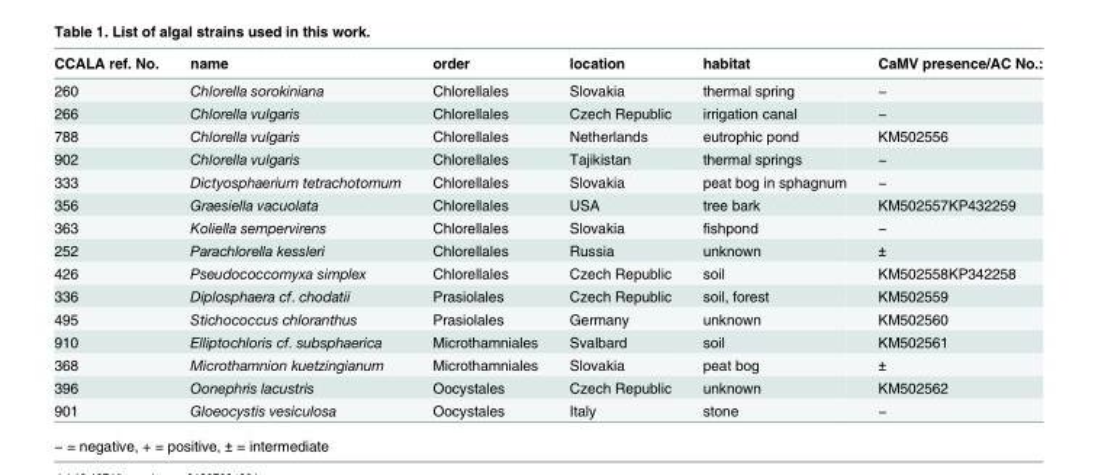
<table><thead><tr><td>CCALA ref. No.</td><td>name</td><td>order</td><td>location</td><td>habitat</td><td>CaMV presence/AC No.:</td></tr></thead><tbody><tr><td>260</td><td>Chlorella sorokiniana</td><td>Chlorellales</td><td>Slovakia</td><td>thermal spring</td><td>−</td></tr><tr><td>266</td><td>Chlorella vulgaris</td><td>Chlorellales</td><td>Czech Republic</td><td>irrigation canal</td><td>−</td></tr><tr><td>788</td><td>Chlorella vulgaris</td><td>Chlorellales</td><td>Netherlands</td><td>eutrophic pond</td><td>KM502556</td></tr><tr><td>902</td><td>Chlorella vulgaris</td><td>Chlorellales</td><td>Tajikistan</td><td>thermal springs</td><td>−</td></tr><tr><td>333</td><td>Dictyosphaerium tetrachotomum</td><td>Chlorellales</td><td>Slovakia</td><td>peat bog in sphagnum</td><td>−</td></tr><tr><td>356</td><td>Graesiella vacuolata</td><td>Chlorellales</td><td>USA</td><td>tree bark</td><td>KM502557KP432259</td></tr><tr><td>363</td><td>Koliella sempervirens</td><td>Chlorellales</td><td>Slovakia</td><td>fishpond</td><td>−</td></tr><tr><td>252</td><td>Parachlorella kessleri</td><td>Chlorellales</td><td>Russia</td><td>unknown</td><td>±</td></tr><tr><td>426</td><td>Pseudococcomyxa simplex</td><td>Chlorellales</td><td>Czech Republic</td><td>soil</td><td>KM502558KP342258</td></tr><tr><td>336</td><td>Diplosphaera cf. chodatii</td><td>Prasiolales</td><td>Czech Republic</td><td>soil, forest</td><td>KM502559</td></tr><tr><td>495</td><td>Stichococcus chloranthus</td><td>Prasiolales</td><td>Germany</td><td>unknown</td><td>KM502560</td></tr><tr><td>910</td><td>Elliptochloris cf. subsphaerica</td><td>Microthamniales</td><td>Svalbard</td><td>soil</td><td>KM502561</td></tr><tr><td>368</td><td>Microthamnion kuetzingianum</td><td>Microthamniales</td><td>Slovakia</td><td>peat bog</td><td>±</td></tr><tr><td>396</td><td>Oonephris lacustris</td><td>Oocystales</td><td>Czech Republic</td><td>unknown</td><td>KM502562</td></tr><tr><td>901</td><td>Gloeocystis vesiculosa</td><td>Oocystales</td><td>Italy</td><td>stone</td><td>−</td></tr></tbody></table>